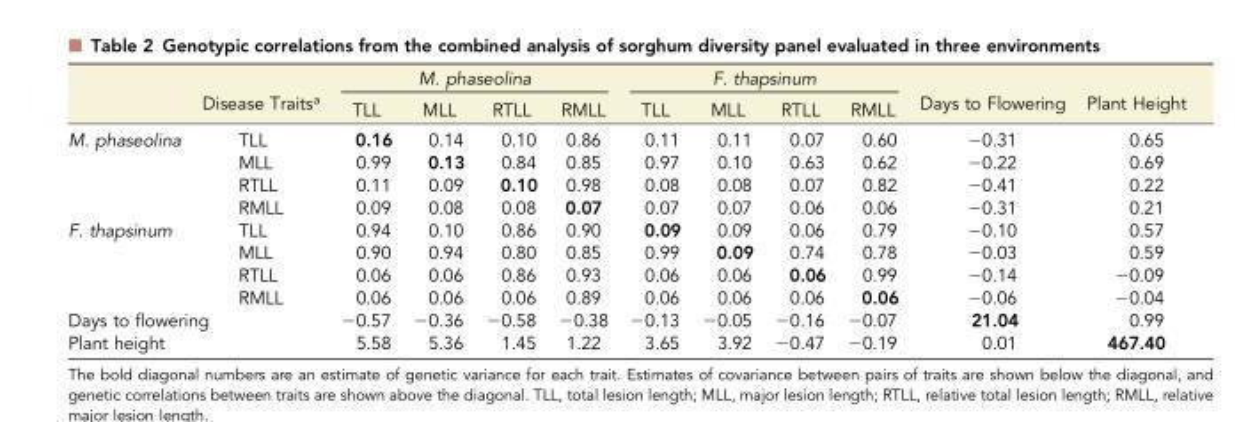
<table><thead><tr><td rowspan="2"></td><td rowspan="2">Disease Traits<sup>a</sup></td><td colspan="4">M. phaseolina</td><td colspan="4">F. thapsinum</td><td rowspan="2">Days to Flowering</td><td rowspan="2">Plant Height</td></tr><tr><td>TLL</td><td>MLL</td><td>RTLL</td><td>RMLL</td><td>TLL</td><td>MLL</td><td>RTLL</td><td>RMLL</td></tr></thead><tbody><tr><td rowspan="4">M. phaseolina</td><td>TLL</td><td>0.16</td><td>0.14</td><td>0.10</td><td>0.86</td><td>0.11</td><td>0.11</td><td>0.07</td><td>0.60</td><td>−0.31</td><td>0.65</td></tr><tr><td>MLL</td><td>0.99</td><td>0.13</td><td>0.84</td><td>0.85</td><td>0.97</td><td>0.10</td><td>0.63</td><td>0.62</td><td>−0.22</td><td>0.69</td></tr><tr><td>RTLL</td><td>0.11</td><td>0.09</td><td>0.10</td><td>0.98</td><td>0.08</td><td>0.08</td><td>0.07</td><td>0.82</td><td>−0.41</td><td>0.22</td></tr><tr><td>RMLL</td><td>0.09</td><td>0.08</td><td>0.08</td><td>0.07</td><td>0.07</td><td>0.07</td><td>0.06</td><td>0.06</td><td>−0.31</td><td>0.21</td></tr><tr><td rowspan="4">F. thapsinum</td><td>TLL</td><td>0.94</td><td>0.10</td><td>0.86</td><td>0.90</td><td>0.09</td><td>0.09</td><td>0.06</td><td>0.79</td><td>−0.10</td><td>0.57</td></tr><tr><td>MLL</td><td>0.90</td><td>0.94</td><td>0.80</td><td>0.85</td><td>0.99</td><td>0.09</td><td>0.74</td><td>0.78</td><td>−0.03</td><td>0.59</td></tr><tr><td>RTLL</td><td>0.06</td><td>0.06</td><td>0.86</td><td>0.93</td><td>0.06</td><td>0.06</td><td>0.06</td><td>0.99</td><td>−0.14</td><td>−0.09</td></tr><tr><td>RMLL</td><td>0.06</td><td>0.06</td><td>0.06</td><td>0.89</td><td>0.06</td><td>0.06</td><td>0.06</td><td>0.06</td><td>−0.06</td><td>−0.04</td></tr><tr><td colspan="2">Days to flowering</td><td>−0.57</td><td>−0.36</td><td>−0.58</td><td>−0.38</td><td>−0.13</td><td>−0.05</td><td>−0.16</td><td>−0.07</td><td>21.04</td><td>0.99</td></tr><tr><td colspan="2">Plant height</td><td>5.58</td><td>5.36</td><td>1.45</td><td>1.22</td><td>3.65</td><td>3.92</td><td>−0.47</td><td>−0.19</td><td>0.01</td><td>467.40</td></tr></tbody></table>